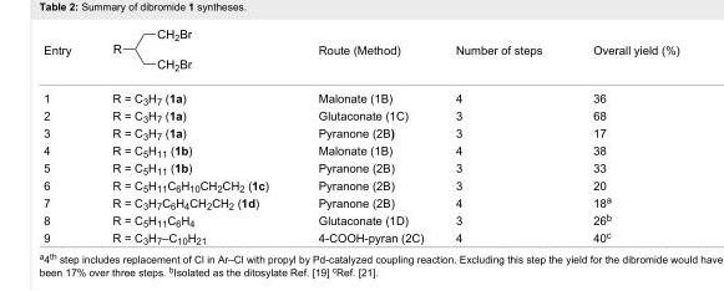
<table><tbody><tr><td>Entry</td><td></td><td>Route (Method)</td><td>Number of steps</td><td>Overall yield (%)</td></tr><tr><td>1</td><td>R = C<sub>3</sub>H<sub>7</sub> (1a)</td><td>Malonate (1B)</td><td>4</td><td>36</td></tr><tr><td>2</td><td>R = C<sub>3</sub>H<sub>7</sub> (1a)</td><td>Glutaconate (1C)</td><td>3</td><td>68</td></tr><tr><td>3</td><td>R = C<sub>3</sub>H<sub>7</sub> (1a)</td><td>Pyranone (2B)</td><td>3</td><td>17</td></tr><tr><td>4</td><td>R = C<sub>5</sub>H<sub>11</sub> (1b)</td><td>Malonate (1B)</td><td>4</td><td>38</td></tr><tr><td>5</td><td>R = C<sub>5</sub>H<sub>11</sub> (1b)</td><td>Pyranone (2B)</td><td>3</td><td>33</td></tr><tr><td>6</td><td>R = C<sub>5</sub>H<sub>11</sub>C<sub>6</sub>H<sub>10</sub>CH<sub>2</sub>CH<sub>2</sub> (1c)</td><td>Pyranone (2B)</td><td>3</td><td>20</td></tr><tr><td>7</td><td>R = C<sub>3</sub>H<sub>7</sub>C<sub>6</sub>H<sub>4</sub>CH<sub>2</sub>CH<sub>2</sub> (1d)</td><td>Pyranone (2B)</td><td>4</td><td>18<sup>a</sup></td></tr><tr><td>8</td><td>R = C<sub>5</sub>H<sub>11</sub>C<sub>6</sub>H<sub>4</sub></td><td>Glutaconate (1D)</td><td>3</td><td>26<sup>b</sup></td></tr><tr><td>9</td><td>R = C<sub>3</sub>H<sub>7</sub>–C<sub>10</sub>H<sub>21</sub></td><td>4-COOH-pyran (2C)</td><td>4</td><td>40<sup>c</sup></td></tr></tbody></table>